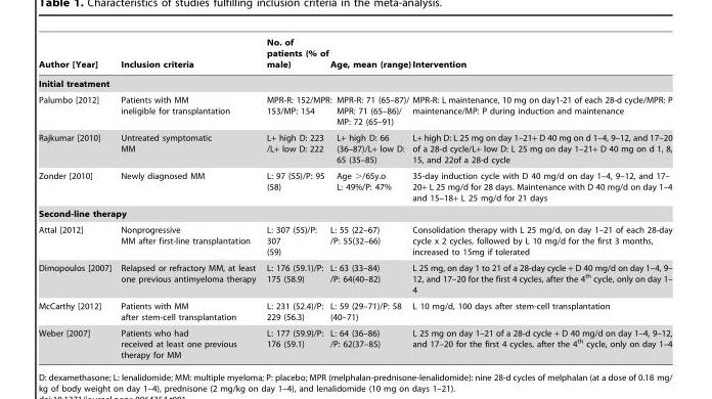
<table><thead><tr><td>Author [Year]</td><td>Inclusion criteria</td><td>No. of patients (% of male)</td><td colspan="2">Age, mean (range)</td><td>Intervention</td></tr></thead><tbody><tr><td colspan="6">Initial treatment</td></tr><tr><td>Palumbo [2012]</td><td>Patients with MM ineligible for transplantation</td><td colspan="2">MPR-R: 152/MPR: 153/MP: 154</td><td>MPR-R: 71 (65–87)/ MPR: 71 (65–86)/ MP: 72 (65–91)</td><td>MPR-R: L maintenance, 10 mg on day1-21 of each 28-d cycle/MPR: P maintenance/MP: P during induction and maintenance</td></tr><tr><td>Rajkumar [2010]</td><td>Untreated symptomatic MM</td><td colspan="2">L+ high D: 223 /L+ low D: 222</td><td>L+ high D: 66 (36–87)/L+ low D: 65 (35–85)</td><td>L+ high D: L 25 mg on day 1–21+ D 40 mg on d 1–4, 9–12, and 17–20 of a 28-d cycle/L+ low D: L 25 mg on day 1–21+ D 40 mg on d 1, 8, 15, and 22of a 28-d cycle</td></tr><tr><td>Zonder [2010]</td><td>Newly diagnosed MM</td><td colspan="2">L: 97 (55)/P: 95 (58)</td><td>Age &gt;/65y.o L: 49%/P: 47%</td><td>35-day induction cycle with D 40 mg/d on day 1–4, 9–12, and 17– 20+ L 25 mg/d for 28 days. Maintenance with D 40 mg/d on day 1–4 and 15–18+ L 25 mg/d for 21 days</td></tr><tr><td colspan="6">Second-line therapy</td></tr><tr><td>Attal [2012]</td><td>Nonprogressive MM after first-line transplantation</td><td>L: 307 (55)/P: 307 (59)</td><td colspan="2">L: 55 (22–67) /P: 55(32–66)</td><td>Consolidation therapy with L 25 mg/d, on day 1–21 of each 28-day cycle x 2 cycles, followed by L 10 mg/d for the first 3 months, increased to 15mg if tolerated</td></tr><tr><td>Dimopoulos [2007]</td><td>Relapsed or refractory MM, at least one previous antimyeloma therapy</td><td>L: 176 (59.1)/P: 175 (58.9)</td><td colspan="2">L: 63 (33–84) /P: 64(40–82)</td><td>L 25 mg, on day 1 to 21 of a 28-day cycle + D 40 mg/d on day 1–4, 9– 12, and 17–20 for the first 4 cycles, after the 4<sup>th</sup> cycle, only on day 1– 4</td></tr><tr><td>McCarthy [2012]</td><td>Patients with MM after stem-cell transplantation</td><td>L: 231 (52.4)/P: 229 (56.3)</td><td colspan="2">L: 59 (29–71)/P: 58 (40–71)</td><td>L 10 mg/d, 100 days after stem-cell transplantation</td></tr><tr><td>Weber [2007]</td><td>Patients who had received at least one previous therapy for MM</td><td>L: 177 (59.9)/P: 176 (59.1)</td><td colspan="2">L: 64 (36–86) /P: 62(37–85)</td><td>L 25 mg on day 1–21 of a 28-d cycle + D 40 mg/d on day 1–4, 9–12, and 17–20 for the first 4 cycles, after the 4<sup>th</sup> cycle, only on day 1–4</td></tr></tbody></table>